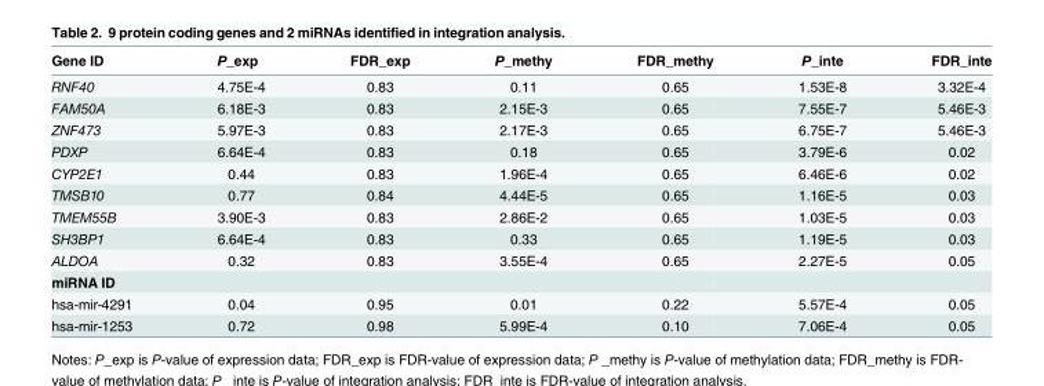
<table><thead><tr><td>Gene ID</td><td>P_exp</td><td>FDR_exp</td><td>P_methy</td><td>FDR_methy</td><td>P_inte</td><td>FDR_inte</td></tr></thead><tbody><tr><td>RNF40</td><td>4.75E-4</td><td>0.83</td><td>0.11</td><td>0.65</td><td>1.53E-8</td><td>3.32E-4</td></tr><tr><td>FAM50A</td><td>6.18E-3</td><td>0.83</td><td>2.15E-3</td><td>0.65</td><td>7.55E-7</td><td>5.46E-3</td></tr><tr><td>ZNF473</td><td>5.97E-3</td><td>0.83</td><td>2.17E-3</td><td>0.65</td><td>6.75E-7</td><td>5.46E-3</td></tr><tr><td>PDXP</td><td>6.64E-4</td><td>0.83</td><td>0.18</td><td>0.65</td><td>3.79E-6</td><td>0.02</td></tr><tr><td>CYP2E1</td><td>0.44</td><td>0.83</td><td>1.96E-4</td><td>0.65</td><td>6.46E-6</td><td>0.02</td></tr><tr><td>TMSB10</td><td>0.77</td><td>0.84</td><td>4.44E-5</td><td>0.65</td><td>1.16E-5</td><td>0.03</td></tr><tr><td>TMEM55B</td><td>3.90E-3</td><td>0.83</td><td>2.86E-2</td><td>0.65</td><td>1.03E-5</td><td>0.03</td></tr><tr><td>SH3BP1</td><td>6.64E-4</td><td>0.83</td><td>0.33</td><td>0.65</td><td>1.19E-5</td><td>0.03</td></tr><tr><td>ALDOA</td><td>0.32</td><td>0.83</td><td>3.55E-4</td><td>0.65</td><td>2.27E-5</td><td>0.05</td></tr><tr><td colspan="7">miRNA ID</td></tr><tr><td>hsa-mir-4291</td><td>0.04</td><td>0.95</td><td>0.01</td><td>0.22</td><td>5.57E-4</td><td>0.05</td></tr><tr><td>hsa-mir-1253</td><td>0.72</td><td>0.98</td><td>5.99E-4</td><td>0.10</td><td>7.06E-4</td><td>0.05</td></tr></tbody></table>